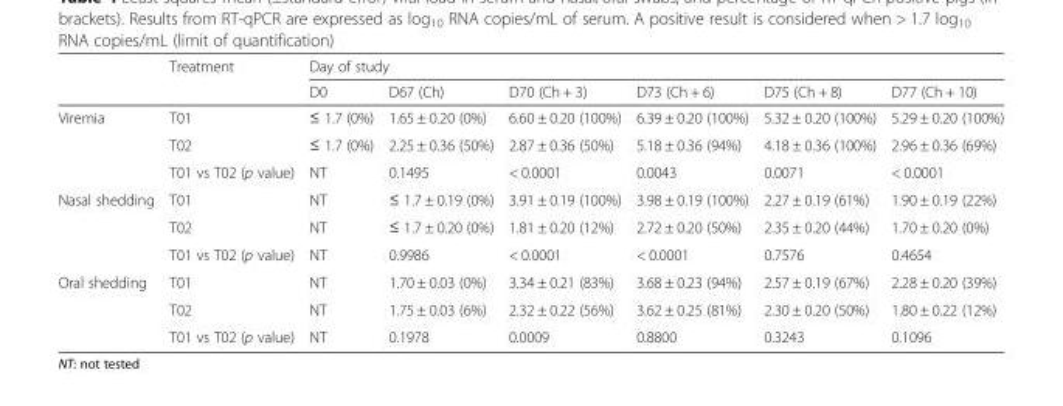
<table><thead><tr><td rowspan="2"></td><td rowspan="2">Treatment</td><td colspan="6">Day of study</td></tr><tr><td>D0</td><td>D67 (Ch)</td><td>D70 (Ch + 3)</td><td>D73 (Ch + 6)</td><td>D75 (Ch + 8)</td><td>D77 (Ch + 10)</td></tr></thead><tbody><tr><td rowspan="3">Viremia</td><td>T01</td><td>≤ 1.7 (0%)</td><td>1.65 ± 0.20 (0%)</td><td>6.60 ± 0.20 (100%)</td><td>6.39 ± 0.20 (100%)</td><td>5.32 ± 0.20 (100%)</td><td>5.29 ± 0.20 (100%)</td></tr><tr><td>T02</td><td>≤ 1.7 (0%)</td><td>2.25 ± 0.36 (50%)</td><td>2.87 ± 0.36 (50%)</td><td>5.18 ± 0.36 (94%)</td><td>4.18 ± 0.36 (100%)</td><td>2.96 ± 0.36 (69%)</td></tr><tr><td>T01 vs T02 (p value)</td><td>NT</td><td>0.1495</td><td>&lt; 0.0001</td><td>0.0043</td><td>0.0071</td><td>&lt; 0.0001</td></tr><tr><td rowspan="3">Nasal shedding</td><td>T01</td><td>NT</td><td>≤ 1.7 ± 0.19 (0%)</td><td>3.91 ± 0.19 (100%)</td><td>3.98 ± 0.19 (100%)</td><td>2.27 ± 0.19 (61%)</td><td>1.90 ± 0.19 (22%)</td></tr><tr><td>T02</td><td>NT</td><td>≤ 1.7 ± 0.20 (0%)</td><td>1.81 ± 0.20 (12%)</td><td>2.72 ± 0.20 (50%)</td><td>2.35 ± 0.20 (44%)</td><td>1.70 ± 0.20 (0%)</td></tr><tr><td>T01 vs T02 (p value)</td><td>NT</td><td>0.9986</td><td>&lt; 0.0001</td><td>&lt; 0.0001</td><td>0.7576</td><td>0.4654</td></tr><tr><td rowspan="3">Oral shedding</td><td>T01</td><td>NT</td><td>1.70 ± 0.03 (0%)</td><td>3.34 ± 0.21 (83%)</td><td>3.68 ± 0.23 (94%)</td><td>2.57 ± 0.19 (67%)</td><td>2.28 ± 0.20 (39%)</td></tr><tr><td>T02</td><td>NT</td><td>1.75 ± 0.03 (6%)</td><td>2.32 ± 0.22 (56%)</td><td>3.62 ± 0.25 (81%)</td><td>2.30 ± 0.20 (50%)</td><td>1.80 ± 0.22 (12%)</td></tr><tr><td>T01 vs T02 (p value)</td><td>NT</td><td>0.1978</td><td>0.0009</td><td>0.8800</td><td>0.3243</td><td>0.1096</td></tr></tbody></table>